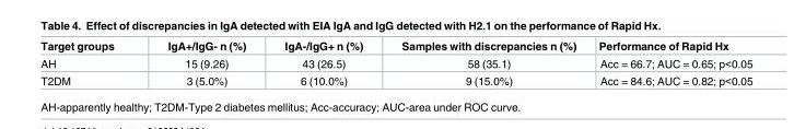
<table><thead><tr><td>Target groups</td><td>IgA+/IgG- n (%)</td><td>IgA-/IgG+ n (%)</td><td>Samples with discrepancies n (%)</td><td>Performance of Rapid Hx</td></tr></thead><tbody><tr><td>AH</td><td>15 (9.26)</td><td>43 (26.5)</td><td>58 (35.1)</td><td>Acc = 66.7; AUC = 0.65; p&lt;0.05</td></tr><tr><td>T2DM</td><td>3 (5.0%)</td><td>6 (10.0%)</td><td>9 (15.0%)</td><td>Acc = 84.6; AUC = 0.82; p&lt;0.05</td></tr></tbody></table>